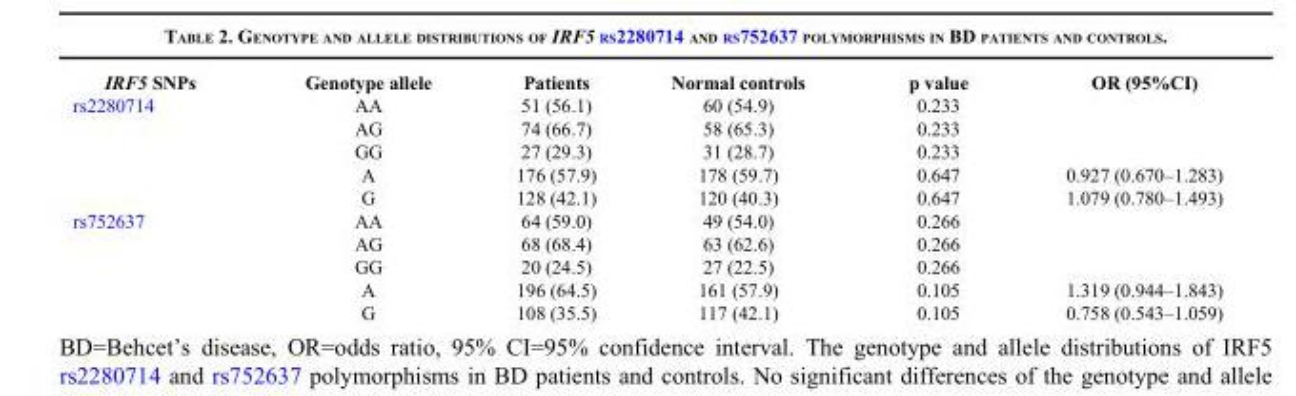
<table><thead><tr><td>IRF5 SNPs</td><td>Genotype allele</td><td>Patients</td><td>Normal controls</td><td>p value</td><td>OR (95%CI)</td></tr></thead><tbody><tr><td rowspan="5">rs2280714</td><td>AA</td><td>51 (56.1)</td><td>60 (54.9)</td><td>0.233</td><td></td></tr><tr><td>AG</td><td>74 (66.7)</td><td>58 (65.3)</td><td>0.233</td><td></td></tr><tr><td>GG</td><td>27 (29.3)</td><td>31 (28.7)</td><td>0.233</td><td></td></tr><tr><td>A</td><td>176 (57.9)</td><td>178 (59.7)</td><td>0.647</td><td>0.927 (0.670–1.283)</td></tr><tr><td>G</td><td>128 (42.1)</td><td>120 (40.3)</td><td>0.647</td><td>1.079 (0.780–1.493)</td></tr><tr><td rowspan="5">rs752637</td><td>AA</td><td>64 (59.0)</td><td>49 (54.0)</td><td>0.266</td><td></td></tr><tr><td>AG</td><td>68 (68.4)</td><td>63 (62.6)</td><td>0.266</td><td></td></tr><tr><td>GG</td><td>20 (24.5)</td><td>27 (22.5)</td><td>0.266</td><td></td></tr><tr><td>A</td><td>196 (64.5)</td><td>161 (57.9)</td><td>0.105</td><td>1.319 (0.944–1.843)</td></tr><tr><td>G</td><td>108 (35.5)</td><td>117 (42.1)</td><td>0.105</td><td>0.758 (0.543–1.059)</td></tr></tbody></table>